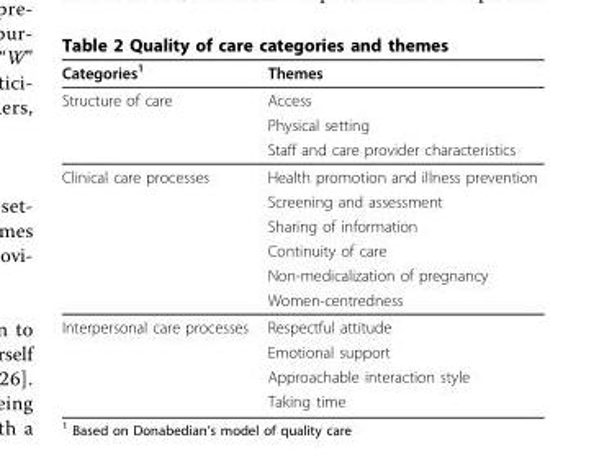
<table><thead><tr><td>Categories<sup>1</sup></td><td>Themes</td></tr></thead><tbody><tr><td rowspan="3">Structure of care</td><td>Access</td></tr><tr><td>Physical setting</td></tr><tr><td>Staff and care provider characteristics</td></tr><tr><td rowspan="6">Clinical care processes</td><td>Health promotion and illness prevention</td></tr><tr><td>Screening and assessment</td></tr><tr><td>Sharing of information</td></tr><tr><td>Continuity of care</td></tr><tr><td>Non-medicalization of pregnancy</td></tr><tr><td>Women-centredness</td></tr><tr><td rowspan="4">Interpersonal care processes</td><td>Respectful attitude</td></tr><tr><td>Emotional support</td></tr><tr><td>Approachable interaction style</td></tr><tr><td>Taking time</td></tr></tbody></table>